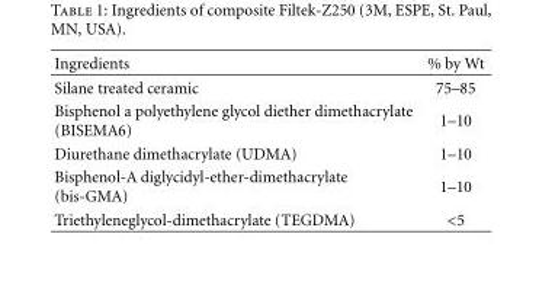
<table><thead><tr><td>Ingredients</td><td>% by Wt</td></tr></thead><tbody><tr><td>Silane treated ceramic</td><td>75–85</td></tr><tr><td>Bisphenol a polyethylene glycol diether dimethacrylate (BISEMA6)</td><td>1–10</td></tr><tr><td>Diurethane dimethacrylate (UDMA)</td><td>1–10</td></tr><tr><td>Bisphenol-A diglycidyl-ether-dimethacrylate (bis-GMA)</td><td>1–10</td></tr><tr><td>Triethyleneglycol-dimethacrylate (TEGDMA)</td><td>&lt;5</td></tr></tbody></table>